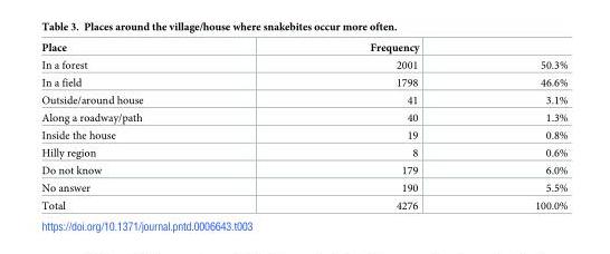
<table><thead><tr><td>Place</td><td>Frequency</td><td></td></tr></thead><tbody><tr><td>In a forest</td><td>2001</td><td>50.3%</td></tr><tr><td>In a field</td><td>1798</td><td>46.6%</td></tr><tr><td>Outside/around house</td><td>41</td><td>3.1%</td></tr><tr><td>Along a roadway/path</td><td>40</td><td>1.3%</td></tr><tr><td>Inside the house</td><td>19</td><td>0.8%</td></tr><tr><td>Hilly region</td><td>8</td><td>0.6%</td></tr><tr><td>Do not know</td><td>179</td><td>6.0%</td></tr><tr><td>No answer</td><td>190</td><td>5.5%</td></tr><tr><td>Total</td><td>4276</td><td>100.0%</td></tr></tbody></table>